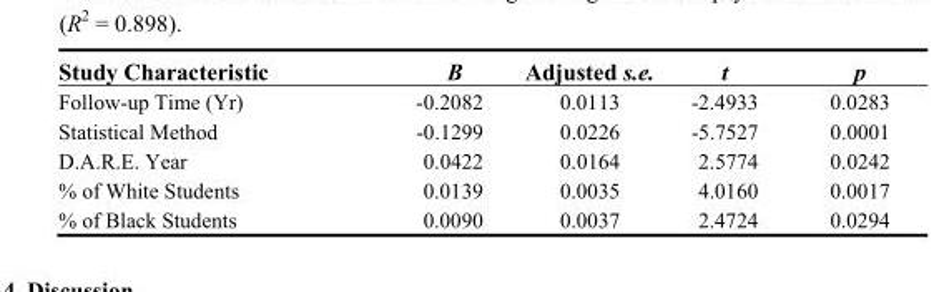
<table><thead><tr><td>Study Characteristic</td><td>B</td><td>Adjusted s.e.</td><td>t</td><td>p</td></tr></thead><tbody><tr><td>Follow-up Time (Yr)</td><td>-0.2082</td><td>0.0113</td><td>-2.4933</td><td>0.0283</td></tr><tr><td>Statistical Method</td><td>-0.1299</td><td>0.0226</td><td>-5.7527</td><td>0.0001</td></tr><tr><td>D.A.R.E. Year</td><td>0.0422</td><td>0.0164</td><td>2.5774</td><td>0.0242</td></tr><tr><td>% of White Students</td><td>0.0139</td><td>0.0035</td><td>4.0160</td><td>0.0017</td></tr><tr><td>% of Black Students</td><td>0.0090</td><td>0.0037</td><td>2.4724</td><td>0.0294</td></tr></tbody></table>